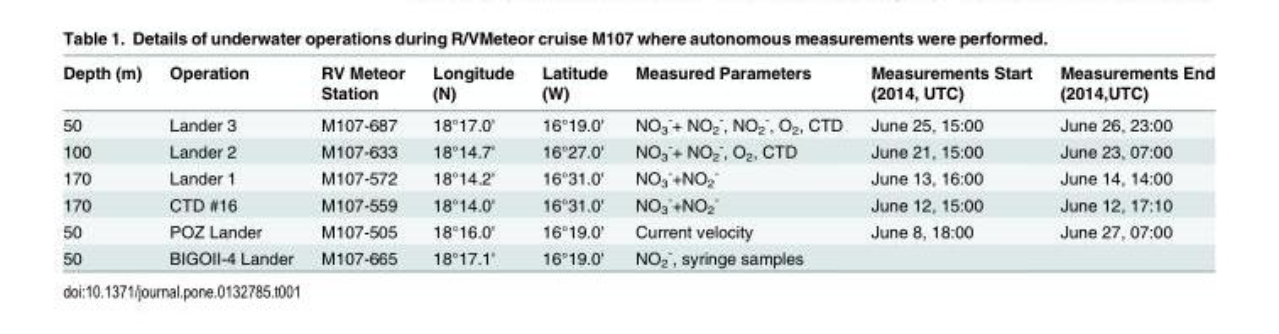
<table><thead><tr><td>Depth (m)</td><td>Operation</td><td>RV Meteor Station</td><td>Longitude (N)</td><td>Latitude (W)</td><td>Measured Parameters</td><td>Measurements Start (2014, UTC)</td><td>Measurements End (2014,UTC)</td></tr></thead><tbody><tr><td>50</td><td>Lander 3</td><td>M107-687</td><td>18°17.0&#x27;</td><td>16°19.0&#x27;</td><td>NO<sub>3</sub> <sup>-</sup>+ NO<sub>2</sub> <sup>-</sup>, NO<sub>2</sub> <sup>-</sup>, O<sub>2</sub>, CTD</td><td>June 25, 15:00</td><td>June 26, 23:00</td></tr><tr><td>100</td><td>Lander 2</td><td>M107-633</td><td>18°14.7&#x27;</td><td>16°27.0&#x27;</td><td>NO<sub>3</sub> <sup>-</sup>+ NO<sub>2</sub> <sup>-</sup>, O<sub>2</sub>, CTD</td><td>June 21, 15:00</td><td>June 23, 07:00</td></tr><tr><td>170</td><td>Lander 1</td><td>M107-572</td><td>18°14.2&#x27;</td><td>16°31.0&#x27;</td><td>NO<sub>3</sub> <sup>-</sup>+NO<sub>2</sub> <sup>-</sup></td><td>June 13, 16:00</td><td>June 14, 14:00</td></tr><tr><td>170</td><td>CTD #16</td><td>M107-559</td><td>18°14.0&#x27;</td><td>16°31.0&#x27;</td><td>NO<sub>3</sub> <sup>-</sup>+NO<sub>2</sub> <sup>-</sup></td><td>June 12, 15:00</td><td>June 12, 17:10</td></tr><tr><td>50</td><td>POZ Lander</td><td>M107-505</td><td>18°16.0&#x27;</td><td>16°19.0&#x27;</td><td>Current velocity</td><td>June 8, 18:00</td><td>June 27, 07:00</td></tr><tr><td>50</td><td>BIGOII-4 Lander</td><td>M107-665</td><td>18°17.1&#x27;</td><td>16°19.0&#x27;</td><td>NO<sub>2</sub> <sup>-</sup>, syringe samples</td><td></td><td></td></tr></tbody></table>